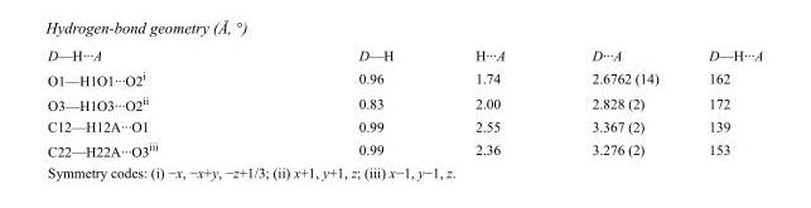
<table><tbody><tr><td>D—H···A</td><td>D—H</td><td>H···A</td><td>D···A</td><td>D—H···A</td></tr><tr><td>O1—H1O1···O2<sup>i</sup></td><td>0.96</td><td>1.74</td><td>2.6762 (14)</td><td>162</td></tr><tr><td>O3—H1O3···O2<sup>ii</sup></td><td>0.83</td><td>2.00</td><td>2.828 (2)</td><td>172</td></tr><tr><td>C12—H12A···O1</td><td>0.99</td><td>2.55</td><td>3.367 (2)</td><td>139</td></tr><tr><td>C22—H22A···O3<sup>iii</sup></td><td>0.99</td><td>2.36</td><td>3.276 (2)</td><td>153</td></tr></tbody></table>